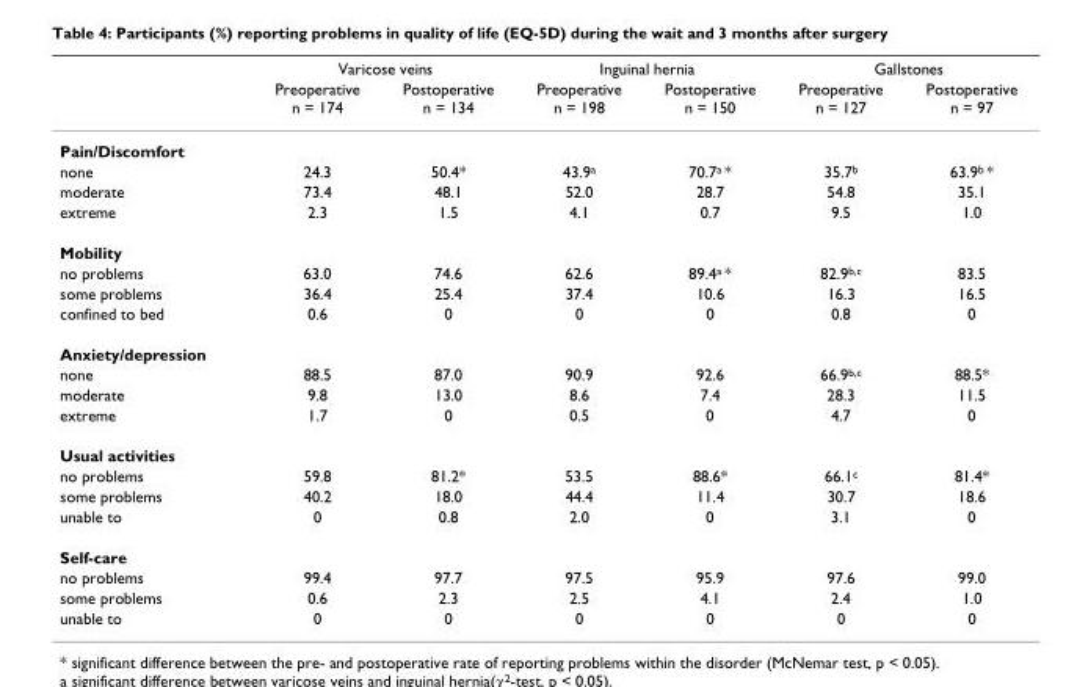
<table><thead><tr><td rowspan="2"></td><td colspan="2">Varicose veins</td><td colspan="2">Inguinal hernia</td><td colspan="2">Gallstones</td></tr><tr><td>Preoperative n = 174</td><td>Postoperative n = 134</td><td>Preoperative n = 198</td><td>Postoperative n = 150</td><td>Preoperative n = 127</td><td>Postoperative n = 97</td></tr></thead><tbody><tr><td colspan="7">Pain/Discomfort</td></tr><tr><td>none</td><td>24.3</td><td>50.4*</td><td>43.9<sup>a</sup></td><td>70.7<sup>a</sup> *</td><td>35.7<sup>b</sup></td><td>63.9<sup>b</sup> *</td></tr><tr><td>moderate</td><td>73.4</td><td>48.1</td><td>52.0</td><td>28.7</td><td>54.8</td><td>35.1</td></tr><tr><td>extreme</td><td>2.3</td><td>1.5</td><td>4.1</td><td>0.7</td><td>9.5</td><td>1.0</td></tr><tr><td colspan="7">Mobility</td></tr><tr><td>no problems</td><td>63.0</td><td>74.6</td><td>62.6</td><td>89.4<sup>a</sup> *</td><td>82.9<sup>b,c</sup></td><td>83.5</td></tr><tr><td>some problems</td><td>36.4</td><td>25.4</td><td>37.4</td><td>10.6</td><td>16.3</td><td>16.5</td></tr><tr><td>confined to bed</td><td>0.6</td><td>0</td><td>0</td><td>0</td><td>0.8</td><td>0</td></tr><tr><td colspan="7">Anxiety/depression</td></tr><tr><td>none</td><td>88.5</td><td>87.0</td><td>90.9</td><td>92.6</td><td>66.9<sup>b,c</sup></td><td>88.5*</td></tr><tr><td>moderate</td><td>9.8</td><td>13.0</td><td>8.6</td><td>7.4</td><td>28.3</td><td>11.5</td></tr><tr><td>extreme</td><td>1.7</td><td>0</td><td>0.5</td><td>0</td><td>4.7</td><td>0</td></tr><tr><td colspan="7">Usual activities</td></tr><tr><td>no problems</td><td>59.8</td><td>81.2*</td><td>53.5</td><td>88.6*</td><td>66.1<sup>c</sup></td><td>81.4*</td></tr><tr><td>some problems</td><td>40.2</td><td>18.0</td><td>44.4</td><td>11.4</td><td>30.7</td><td>18.6</td></tr><tr><td>unable to</td><td>0</td><td>0.8</td><td>2.0</td><td>0</td><td>3.1</td><td>0</td></tr><tr><td colspan="7">Self-care</td></tr><tr><td>no problems</td><td>99.4</td><td>97.7</td><td>97.5</td><td>95.9</td><td>97.6</td><td>99.0</td></tr><tr><td>some problems</td><td>0.6</td><td>2.3</td><td>2.5</td><td>4.1</td><td>2.4</td><td>1.0</td></tr><tr><td>unable to</td><td>0</td><td>0</td><td>0</td><td>0</td><td>0</td><td>0</td></tr></tbody></table>